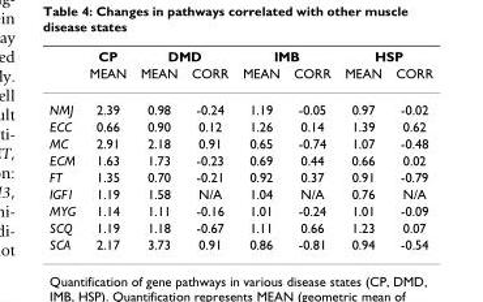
<table><thead><tr><td rowspan="2"></td><td rowspan="2">CP MEAN</td><td colspan="2">DMD</td><td colspan="2">IMB</td><td colspan="2">HSP</td></tr><tr><td>MEAN</td><td>CORR</td><td>MEAN</td><td>CORR</td><td>MEAN</td><td>CORR</td></tr></thead><tbody><tr><td>NMJ</td><td>2.39</td><td>0.98</td><td>-0.24</td><td>1.19</td><td>-0.05</td><td>0.97</td><td>-0.02</td></tr><tr><td>ECC</td><td>0.66</td><td>0.90</td><td>0.12</td><td>1.26</td><td>0.14</td><td>1.39</td><td>0.62</td></tr><tr><td>MC</td><td>2.91</td><td>2.18</td><td>0.91</td><td>0.65</td><td>-0.74</td><td>1.07</td><td>-0.48</td></tr><tr><td>ECM</td><td>1.63</td><td>1.73</td><td>-0.23</td><td>0.69</td><td>0.44</td><td>0.66</td><td>0.02</td></tr><tr><td>FT</td><td>1.35</td><td>0.70</td><td>-0.21</td><td>0.92</td><td>0.37</td><td>0.91</td><td>-0.79</td></tr><tr><td>IGF1</td><td>1.19</td><td>1.58</td><td>N/A</td><td>1.04</td><td>N/A</td><td>0.76</td><td>N/A</td></tr><tr><td>MYG</td><td>1.14</td><td>1.11</td><td>-0.16</td><td>1.01</td><td>-0.24</td><td>1.01</td><td>-0.09</td></tr><tr><td>SCQ</td><td>1.19</td><td>1.18</td><td>-0.67</td><td>1.11</td><td>0.66</td><td>1.23</td><td>0.07</td></tr><tr><td>SCA</td><td>2.17</td><td>3.73</td><td>0.91</td><td>0.86</td><td>-0.81</td><td>0.94</td><td>-0.54</td></tr></tbody></table>